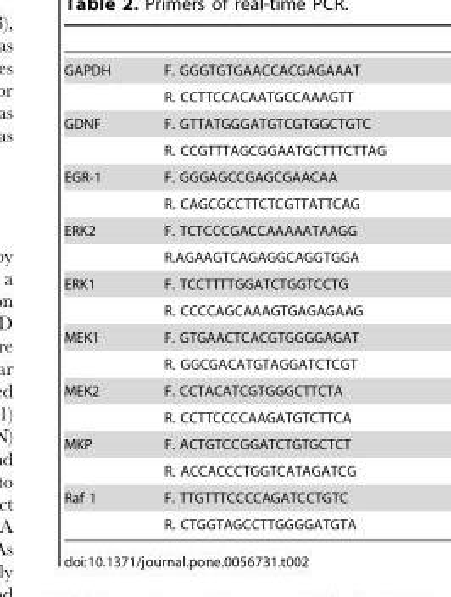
<table><tbody><tr><td rowspan="2">GAPDH</td><td>F. GGGTGTGAACCACGAGAAAT</td></tr><tr><td>R. CCTTCCACAATGCCAAAGTT</td></tr><tr><td rowspan="2">GDNF</td><td>F. GTTATGGGATGTCGTGGCTGTC</td></tr><tr><td>R. CCGTTTAGCGGAATGCTTTCTTAG</td></tr><tr><td rowspan="2">EGR-1</td><td>F. GGGAGCCGAGCGAACAA</td></tr><tr><td>R. CAGCGCCTTCTCGTTATTCAG</td></tr><tr><td rowspan="2">ERK2</td><td>F. TCTCCCGACCAAAAATAAGG</td></tr><tr><td>R.AGAAGTCAGAGGCAGGTGGA</td></tr><tr><td rowspan="2">ERK1</td><td>F. TCCTTTTGGATCTGGTCCTG</td></tr><tr><td>R. CCCCAGCAAAGTGAGAGAAG</td></tr><tr><td rowspan="2">MEK1</td><td>F. GTGAACTCACGTGGGGAGAT</td></tr><tr><td>R. GGCGACATGTAGGATCTCGT</td></tr><tr><td rowspan="2">MEK2</td><td>F. CCTACATCGTGGGCTTCTA</td></tr><tr><td>R. CCTTCCCCAAGATGTCTTCA</td></tr><tr><td rowspan="2">MKP</td><td>F. ACTGTCCGGATCTGTGCTCT</td></tr><tr><td>R. ACCACCCTGGTCATAGATCG</td></tr><tr><td rowspan="2">Raf 1</td><td>F. TTGTTTCCCCAGATCCTGTC</td></tr><tr><td>R. CTGGTAGCCTTGGGGATGTA</td></tr></tbody></table>